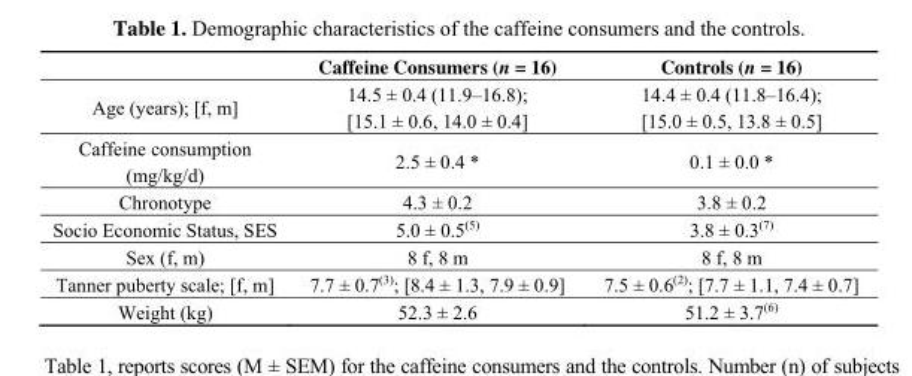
<table><thead><tr><td></td><td>Caffeine Consumers (n = 16)</td><td>Controls (n = 16)</td></tr></thead><tbody><tr><td>Age (years); [f, m]</td><td>14.5 ± 0.4 (11.9–16.8); [15.1 ± 0.6, 14.0 ± 0.4]</td><td>14.4 ± 0.4 (11.8–16.4); [15.0 ± 0.5, 13.8 ± 0.5]</td></tr><tr><td>Caffeine consumption (mg/kg/d)</td><td>2.5 ± 0.4 *</td><td>0.1 ± 0.0 *</td></tr><tr><td>Chronotype</td><td>4.3 ± 0.2</td><td>3.8 ± 0.2</td></tr><tr><td>Socio Economic Status, SES</td><td>5.0 ± 0.5<sup>(5)</sup></td><td>3.8 ± 0.3<sup>(7)</sup></td></tr><tr><td>Sex (f, m)</td><td>8 f, 8 m</td><td>8 f, 8 m</td></tr><tr><td>Tanner puberty scale; [f, m]</td><td>7.7 ± 0.7<sup>(3)</sup>; [8.4 ± 1.3, 7.9 ± 0.9]</td><td>7.5 ± 0.6<sup>(2)</sup>; [7.7 ± 1.1, 7.4 ± 0.7]</td></tr><tr><td>Weight (kg)</td><td>52.3 ± 2.6</td><td>51.2 ± 3.7<sup>(6)</sup></td></tr></tbody></table>